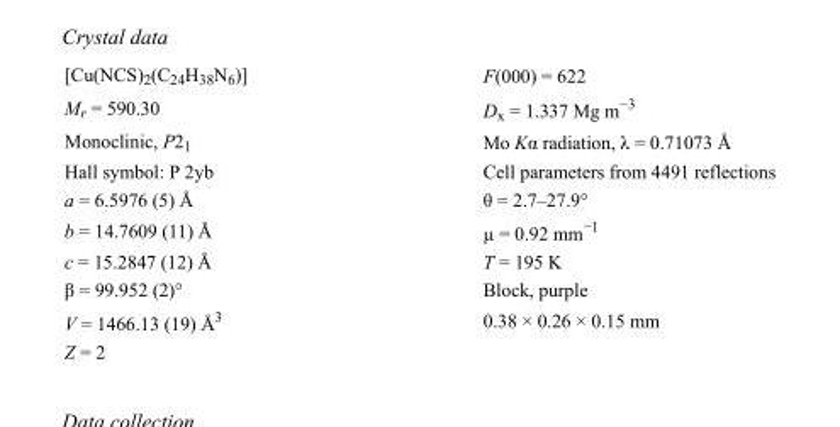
<table><tbody><tr><td>[Cu(NCS)<sub>2</sub>(C<sub>24</sub>H<sub>38</sub>N<sub>6</sub>)]</td><td>F(000) = 622</td></tr><tr><td>M<sub>r</sub> = 590.30</td><td>D<sub>x</sub> = 1.337 Mg m<sup>−3</sup></td></tr><tr><td>Monoclinic, P2<sub>1</sub></td><td>Mo Kα radiation, λ = 0.71073 Å</td></tr><tr><td>Hall symbol: P 2yb</td><td>Cell parameters from 4491 reflections</td></tr><tr><td>a = 6.5976 (5) Å</td><td>θ = 2.7–27.9°</td></tr><tr><td>b = 14.7609 (11) Å</td><td>µ = 0.92 mm<sup>−1</sup></td></tr><tr><td>c = 15.2847 (12) Å</td><td>T = 195 K</td></tr><tr><td>β = 99.952 (2)°</td><td>Block, purple</td></tr><tr><td>V = 1466.13 (19) Å<sup>3</sup></td><td>0.38 × 0.26 × 0.15 mm</td></tr><tr><td>Z = 2</td><td></td></tr></tbody></table>